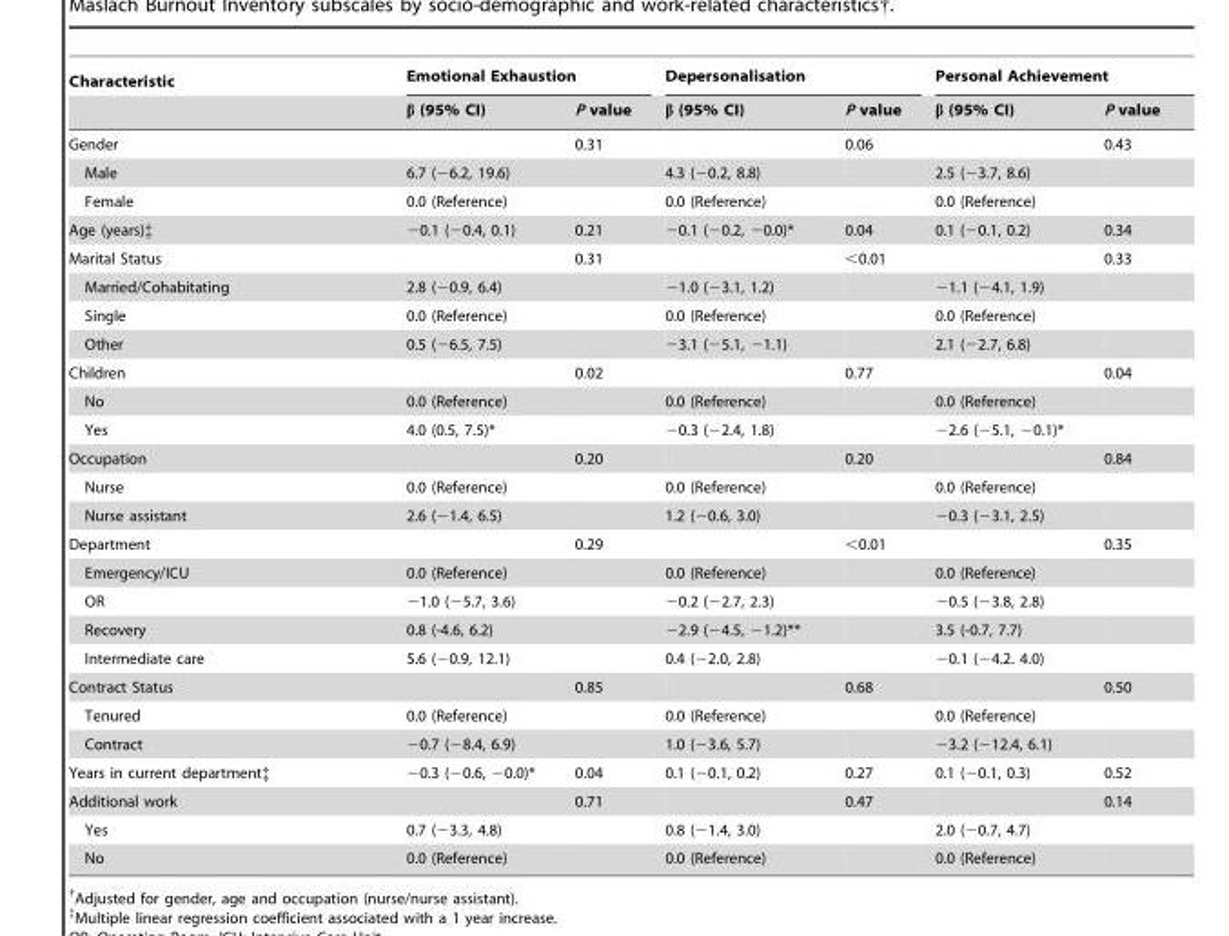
<table><thead><tr><td rowspan="2">Characteristic</td><td colspan="2">Emotional Exhaustion</td><td colspan="2">Depersonalisation</td><td colspan="2">Personal Achievement</td></tr><tr><td>β (95% CI)</td><td>P value</td><td>β (95% CI)</td><td>P value</td><td>β (95% CI)</td><td>P value</td></tr></thead><tbody><tr><td>Gender</td><td></td><td>0.31</td><td></td><td>0.06</td><td></td><td>0.43</td></tr><tr><td>Male</td><td>6.7 (−6.2, 19.6)</td><td></td><td>4.3 (−0.2, 8.8)</td><td></td><td>2.5 (−3.7, 8.6)</td><td></td></tr><tr><td>Female</td><td>0.0 (Reference)</td><td></td><td>0.0 (Reference)</td><td></td><td>0.0 (Reference)</td><td></td></tr><tr><td>Age (years)‡</td><td>−0.1 (−0.4, 0.1)</td><td>0.21</td><td>−0.1 (−0.2, −0.0)*</td><td>0.04</td><td>0.1 (−0.1, 0.2)</td><td>0.34</td></tr><tr><td>Marital Status</td><td></td><td>0.31</td><td></td><td>&lt;0.01</td><td></td><td>0.33</td></tr><tr><td>Married/Cohabitating</td><td>2.8 (−0.9, 6.4)</td><td></td><td>−1.0 (−3.1, 1.2)</td><td></td><td>−1.1 (−4.1, 1.9)</td><td></td></tr><tr><td>Single</td><td>0.0 (Reference)</td><td></td><td>0.0 (Reference)</td><td></td><td>0.0 (Reference)</td><td></td></tr><tr><td>Other</td><td>0.5 (−6.5, 7.5)</td><td></td><td>−3.1 (−5.1, −1.1)</td><td></td><td>2.1 (−2.7, 6.8)</td><td></td></tr><tr><td>Children</td><td></td><td>0.02</td><td></td><td>0.77</td><td></td><td>0.04</td></tr><tr><td>No</td><td>0.0 (Reference)</td><td></td><td>0.0 (Reference)</td><td></td><td>0.0 (Reference)</td><td></td></tr><tr><td>Yes</td><td>4.0 (0.5, 7.5)*</td><td></td><td>−0.3 (−2.4, 1.8)</td><td></td><td>−2.6 (−5.1, −0.1)*</td><td></td></tr><tr><td>Occupation</td><td></td><td>0.20</td><td></td><td>0.20</td><td></td><td>0.84</td></tr><tr><td>Nurse</td><td>0.0 (Reference)</td><td></td><td>0.0 (Reference)</td><td></td><td>0.0 (Reference)</td><td></td></tr><tr><td>Nurse assistant</td><td>2.6 (−1.4, 6.5)</td><td></td><td>1.2 (−0.6, 3.0)</td><td></td><td>−0.3 (−3.1, 2.5)</td><td></td></tr><tr><td>Department</td><td></td><td>0.29</td><td></td><td>&lt;0.01</td><td></td><td>0.35</td></tr><tr><td>Emergency/ICU</td><td>0.0 (Reference)</td><td></td><td>0.0 (Reference)</td><td></td><td>0.0 (Reference)</td><td></td></tr><tr><td>OR</td><td>−1.0 (−5.7, 3.6)</td><td></td><td>−0.2 (−2.7, 2.3)</td><td></td><td>−0.5 (−3.8, 2.8)</td><td></td></tr><tr><td>Recovery</td><td>0.8 (-4.6, 6.2)</td><td></td><td>−2.9 (−4.5, −1.2)**</td><td></td><td>3.5 (-0.7, 7.7)</td><td></td></tr><tr><td>Intermediate care</td><td>5.6 (−0.9, 12.1)</td><td></td><td>0.4 (−2.0, 2.8)</td><td></td><td>−0.1 (−4.2. 4.0)</td><td></td></tr><tr><td>Contract Status</td><td></td><td>0.85</td><td></td><td>0.68</td><td></td><td>0.50</td></tr><tr><td>Tenured</td><td>0.0 (Reference)</td><td></td><td>0.0 (Reference)</td><td></td><td>0.0 (Reference)</td><td></td></tr><tr><td>Contract</td><td>−0.7 (−8.4, 6.9)</td><td></td><td>1.0 (−3.6, 5.7)</td><td></td><td>−3.2 (−12.4, 6.1)</td><td></td></tr><tr><td>Years in current department‡</td><td>−0.3 (−0.6, −0.0)*</td><td>0.04</td><td>0.1 (−0.1, 0.2)</td><td>0.27</td><td>0.1 (−0.1, 0.3)</td><td>0.52</td></tr><tr><td>Additional work</td><td></td><td>0.71</td><td></td><td>0.47</td><td></td><td>0.14</td></tr><tr><td>Yes</td><td>0.7 (−3.3, 4.8)</td><td></td><td>0.8 (−1.4, 3.0)</td><td></td><td>2.0 (−0.7, 4.7)</td><td></td></tr><tr><td>No</td><td>0.0 (Reference)</td><td></td><td>0.0 (Reference)</td><td></td><td>0.0 (Reference)</td><td></td></tr></tbody></table>